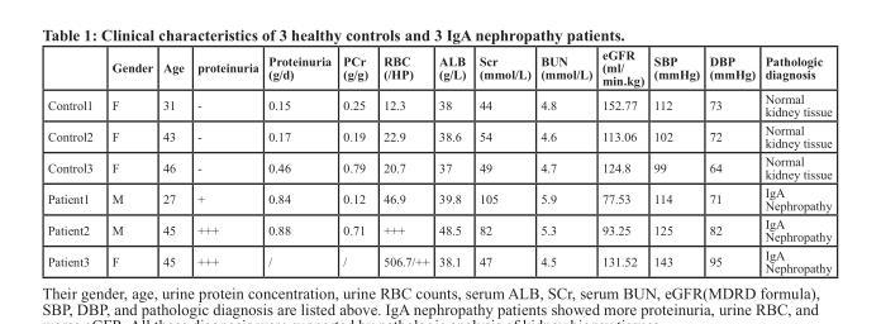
<table><thead><tr><td></td><td>Gender</td><td>Age</td><td>proteinuria</td><td>Proteinuria (g/d)</td><td>Pcr (g/g)</td><td>rbc (/HP)</td><td>ALb (g/L)</td><td>scr (mmol/L)</td><td>bun (mmol/L)</td><td>eGFr (ml/ min.kg)</td><td>sbP (mmHg)</td><td>dbP (mmHg)</td><td>Pathologic diagnosis</td></tr></thead><tbody><tr><td>Control1</td><td>F</td><td>31</td><td>-</td><td>0.15</td><td>0.25</td><td>12.3</td><td>38</td><td>44</td><td>4.8</td><td>152.77</td><td>112</td><td>73</td><td>Normal kidney tissue</td></tr><tr><td>Control2</td><td>F</td><td>43</td><td>-</td><td>0.17</td><td>0.19</td><td>22.9</td><td>38.6</td><td>54</td><td>4.6</td><td>113.06</td><td>102</td><td>72</td><td>Normal kidney tissue</td></tr><tr><td>Control3</td><td>F</td><td>46</td><td>-</td><td>0.46</td><td>0.79</td><td>20.7</td><td>37</td><td>49</td><td>4.7</td><td>124.8</td><td>99</td><td>64</td><td>Normal kidney tissue</td></tr><tr><td>Patient1</td><td>M</td><td>27</td><td>+</td><td>0.84</td><td>0.12</td><td>46.9</td><td>39.8</td><td>105</td><td>5.9</td><td>77.53</td><td>114</td><td>71</td><td>IgA Nephropathy</td></tr><tr><td>Patient2</td><td>M</td><td>45</td><td>+++</td><td>0.88</td><td>0.71</td><td>+++</td><td>48.5</td><td>82</td><td>5.3</td><td>93.25</td><td>125</td><td>82</td><td>IgA Nephropathy</td></tr><tr><td>Patient3</td><td>F</td><td>45</td><td>+++</td><td>/</td><td>/</td><td>506.7/++</td><td>38.1</td><td>47</td><td>4.5</td><td>131.52</td><td>143</td><td>95</td><td>IgA Nephropathy</td></tr></tbody></table>